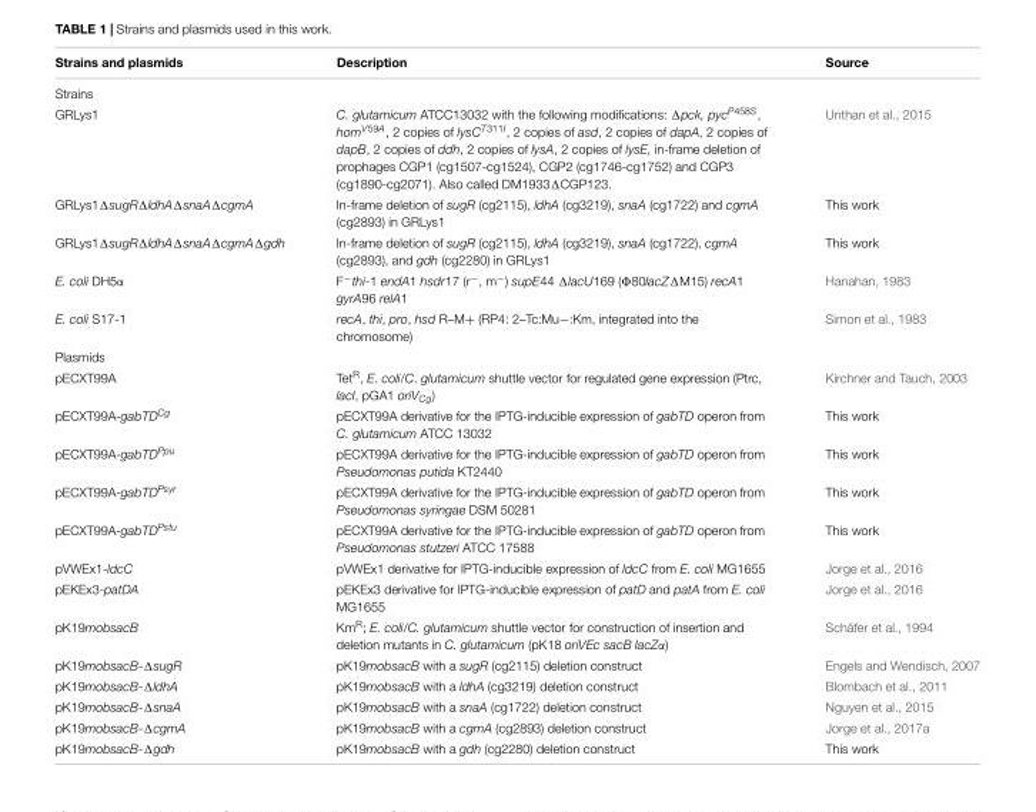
<table><thead><tr><td>Strains and plasmids</td><td>Description</td><td>Source</td></tr></thead><tbody><tr><td colspan="3">Strains</td></tr><tr><td>GRLys1</td><td>C. glutamicum ATCC13032 with the following modifications: Δpck, pyc<sup>P458S</sup>, hom<sup>V59A</sup>, 2 copies of lysC<sup>T311I</sup>, 2 copies of asd, 2 copies of dapA, 2 copies of dapB, 2 copies of ddh, 2 copies of lysA, 2 copies of lysE, in-frame deletion of prophages CGP1 (cg1507-cg1524), CGP2 (cg1746-cg1752) and CGP3 (cg1890-cg2071). Also called DM1933ΔCGP123.</td><td>Unthan et al., 2015</td></tr><tr><td>GRLys1ΔsugRΔldhAΔsnaAΔcgmA</td><td>In-frame deletion of sugR (cg2115), ldhA (cg3219), snaA (cg1722) and cgmA (cg2893) in GRLys1</td><td>This work</td></tr><tr><td>GRLys1ΔsugRΔldhAΔsnaAΔcgmAΔgdh</td><td>In-frame deletion of sugR (cg2115), ldhA (cg3219), snaA (cg1722), cgmA (cg2893), and gdh (cg2280) in GRLys1</td><td>This work</td></tr><tr><td>E. coli DH5α</td><td>F<sup>−</sup>thi-1 endA1 hsdr17 (r<sup>−</sup>, m<sup>−</sup>) supE44 ΔlacU169 (Φ80lacZΔM15) recA1 gyrA96 relA1</td><td>Hanahan, 1983</td></tr><tr><td>E. coli S17-1</td><td>recA, thi, pro, hsd R–M+ (RP4: 2–Tc:Mu−:Km, integrated into the chromosome)</td><td>Simon et al., 1983</td></tr><tr><td colspan="3">Plasmids</td></tr><tr><td>pECXT99A</td><td>Tet<sup>R</sup>, E. coli/C. glutamicum shuttle vector for regulated gene expression (Ptrc, lacI, pGA1 oriV<sub>Cg</sub>)</td><td>Kirchner and Tauch, 2003</td></tr><tr><td>pECXT99A-gabTD<sup>Cg</sup></td><td>pECXT99A derivative for the IPTG-inducible expression of gabTD operon from C. glutamicum ATCC 13032</td><td>This work</td></tr><tr><td>pECXT99A-gabTD<sup>Ppu</sup></td><td>pECXT99A derivative for the IPTG-inducible expression of gabTD operon from Pseudomonas putida KT2440</td><td>This work</td></tr><tr><td>pECXT99A-gabTD<sup>Psyr</sup></td><td>pECXT99A derivative for the IPTG-inducible expression of gabTD operon from Pseudomonas syringae DSM 50281</td><td>This work</td></tr><tr><td>pECXT99A-gabTD<sup>Pstu</sup></td><td>pECXT99A derivative for the IPTG-inducible expression of gabTD operon from Pseudomonas stutzeri ATCC 17588</td><td>This work</td></tr><tr><td>pVWEx1-ldcC</td><td>pVWEx1 derivative for IPTG-inducible expression of ldcC from E. coli MG1655</td><td>Jorge et al., 2016</td></tr><tr><td>pEKEx3-patDA</td><td>pEKEx3 derivative for IPTG-inducible expression of patD and patA from E. coli MG1655</td><td>Jorge et al., 2016</td></tr><tr><td>pK19mobsacB</td><td>Km<sup>R</sup>; E. coli/C. glutamicum shuttle vector for construction of insertion and deletion mutants in C. glutamicum (pK18 oriVEc sacB lacZα)</td><td>Schäfer et al., 1994</td></tr><tr><td>pK19mobsacB-ΔsugR</td><td>pK19mobsacB with a sugR (cg2115) deletion construct</td><td>Engels and Wendisch, 2007</td></tr><tr><td>pK19mobsacB-ΔldhA</td><td>pK19mobsacB with a ldhA (cg3219) deletion construct</td><td>Blombach et al., 2011</td></tr><tr><td>pK19mobsacB-ΔsnaA</td><td>pK19mobsacB with a snaA (cg1722) deletion construct</td><td>Nguyen et al., 2015</td></tr><tr><td>pK19mobsacB-ΔcgmA</td><td>pK19mobsacB with a cgmA (cg2893) deletion construct</td><td>Jorge et al., 2017a</td></tr><tr><td>pK19mobsacB-Δgdh</td><td>pK19mobsacB with a gdh (cg2280) deletion construct</td><td>This work</td></tr></tbody></table>